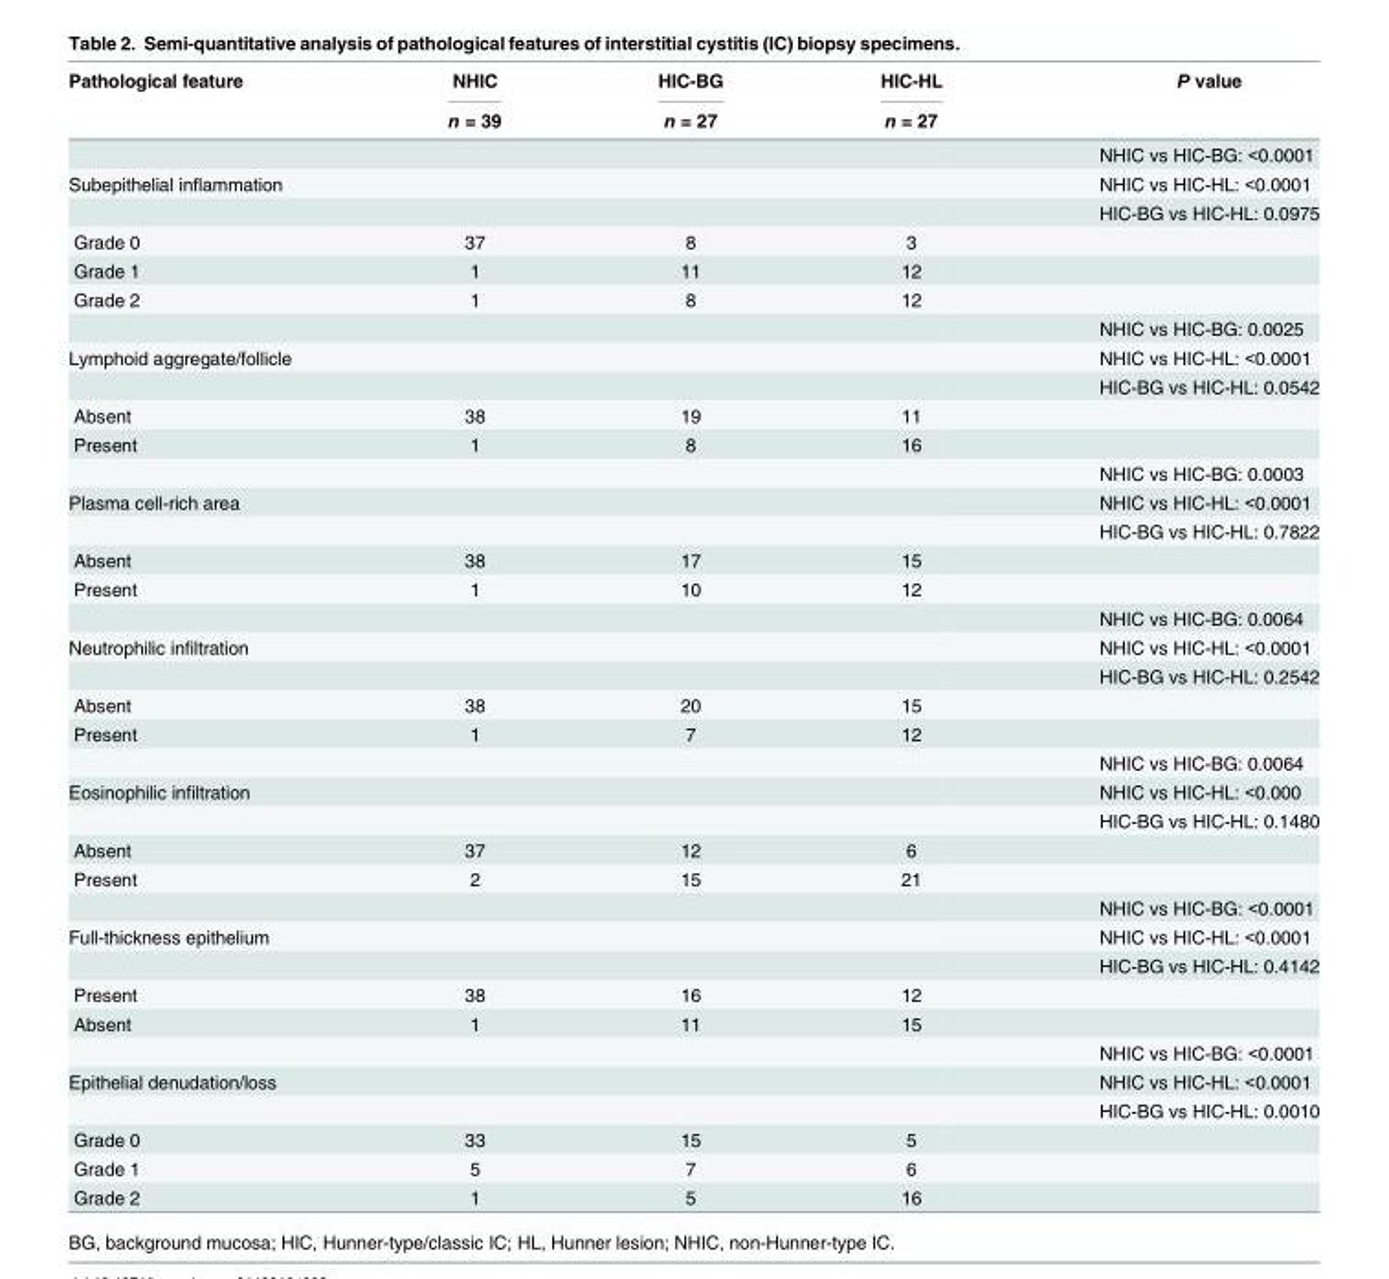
<table><thead><tr><td rowspan="2">Pathological feature</td><td rowspan="2">NHIC n = 39</td><td rowspan="2">HIC-BG n = 27</td><td rowspan="2">HIC-HL n = 27</td><td rowspan="2">P value</td></tr><tr></tr></thead><tbody><tr><td></td><td></td><td></td><td></td><td>NHIC vs HIC-BG: &lt;0.0001</td></tr><tr><td rowspan="2">Subepithelial inflammation</td><td></td><td></td><td></td><td>NHIC vs HIC-HL: &lt;0.0001</td></tr><tr><td></td><td></td><td></td><td>HIC-BG vs HIC-HL: 0.0975</td></tr><tr><td>Grade 0</td><td>37</td><td>8</td><td>3</td><td></td></tr><tr><td>Grade 1</td><td>1</td><td>11</td><td>12</td><td></td></tr><tr><td rowspan="2">Grade 2</td><td>1</td><td>8</td><td>12</td><td></td></tr><tr><td></td><td></td><td></td><td>NHIC vs HIC-BG: 0.0025</td></tr><tr><td rowspan="2">Lymphoid aggregate/follicle</td><td></td><td></td><td></td><td>NHIC vs HIC-HL: &lt;0.0001</td></tr><tr><td></td><td></td><td></td><td>HIC-BG vs HIC-HL: 0.0542</td></tr><tr><td>Absent</td><td>38</td><td>19</td><td>11</td><td></td></tr><tr><td rowspan="2">Present</td><td>1</td><td>8</td><td>16</td><td></td></tr><tr><td></td><td></td><td></td><td>NHIC vs HIC-BG: 0.0003</td></tr><tr><td rowspan="2">Plasma cell-rich area</td><td></td><td></td><td></td><td>NHIC vs HIC-HL: &lt;0.0001</td></tr><tr><td></td><td></td><td></td><td>HIC-BG vs HIC-HL: 0.7822</td></tr><tr><td>Absent</td><td>38</td><td>17</td><td>15</td><td></td></tr><tr><td rowspan="2">Present</td><td>1</td><td>10</td><td>12</td><td></td></tr><tr><td></td><td></td><td></td><td>NHIC vs HIC-BG: 0.0064</td></tr><tr><td rowspan="2">Neutrophilic infiltration</td><td></td><td></td><td></td><td>NHIC vs HIC-HL: &lt;0.0001</td></tr><tr><td></td><td></td><td></td><td>HIC-BG vs HIC-HL: 0.2542</td></tr><tr><td>Absent</td><td>38</td><td>20</td><td>15</td><td></td></tr><tr><td rowspan="2">Present</td><td>1</td><td>7</td><td>12</td><td></td></tr><tr><td></td><td></td><td></td><td>NHIC vs HIC-BG: 0.0064</td></tr><tr><td rowspan="2">Eosinophilic infiltration</td><td></td><td></td><td></td><td>NHIC vs HIC-HL: &lt;0.000</td></tr><tr><td></td><td></td><td></td><td>HIC-BG vs HIC-HL: 0.1480</td></tr><tr><td>Absent</td><td>37</td><td>12</td><td>6</td><td></td></tr><tr><td rowspan="2">Present</td><td>2</td><td>15</td><td>21</td><td></td></tr><tr><td></td><td></td><td></td><td>NHIC vs HIC-BG: &lt;0.0001</td></tr><tr><td rowspan="2">Full-thickness epithelium</td><td></td><td></td><td></td><td>NHIC vs HIC-HL: &lt;0.0001</td></tr><tr><td></td><td></td><td></td><td>HIC-BG vs HIC-HL: 0.4142</td></tr><tr><td>Present</td><td>38</td><td>16</td><td>12</td><td></td></tr><tr><td rowspan="2">Absent</td><td>1</td><td>11</td><td>15</td><td></td></tr><tr><td></td><td></td><td></td><td>NHIC vs HIC-BG: &lt;0.0001</td></tr><tr><td rowspan="2">Epithelial denudation/loss</td><td></td><td></td><td></td><td>NHIC vs HIC-HL: &lt;0.0001</td></tr><tr><td></td><td></td><td></td><td>HIC-BG vs HIC-HL: 0.0010</td></tr><tr><td>Grade 0</td><td>33</td><td>15</td><td>5</td><td></td></tr><tr><td>Grade 1</td><td>5</td><td>7</td><td>6</td><td></td></tr><tr><td>Grade 2</td><td>1</td><td>5</td><td>16</td><td></td></tr></tbody></table>